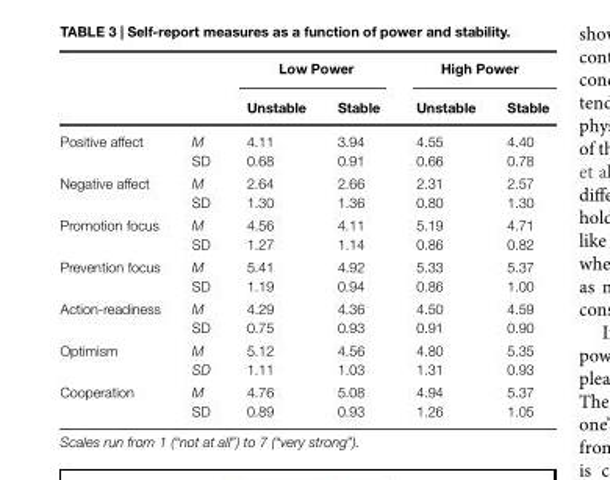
<table><thead><tr><td rowspan="2"></td><td rowspan="2"></td><td colspan="2">Low Power</td><td colspan="2">High Power</td></tr><tr><td>Unstable</td><td>Stable</td><td>Unstable</td><td>Stable</td></tr></thead><tbody><tr><td>Positive affect</td><td>M SD</td><td>4.11 0.68</td><td>3.94 0.91</td><td>4.55 0.66</td><td>4.40 0.78</td></tr><tr><td>Negative affect</td><td>M SD</td><td>2.64 1.30</td><td>2.66 1.36</td><td>2.31 0.80</td><td>2.57 1.30</td></tr><tr><td>Promotion focus</td><td>M SD</td><td>4.56 1.27</td><td>4.11 1.14</td><td>5.19 0.86</td><td>4.71 0.82</td></tr><tr><td>Prevention focus</td><td>M SD</td><td>5.41 1.19</td><td>4.92 0.94</td><td>5.33 0.86</td><td>5.37 1.00</td></tr><tr><td>Action-readiness</td><td>M SD</td><td>4.29 0.75</td><td>4.36 0.93</td><td>4.50 0.91</td><td>4.59 0.90</td></tr><tr><td>Optimism</td><td>M SD</td><td>5.12 1.11</td><td>4.56 1.03</td><td>4.80 1.31</td><td>5.35 0.93</td></tr><tr><td>Cooperation</td><td>M SD</td><td>4.76 0.89</td><td>5.08 0.93</td><td>4.94 1.26</td><td>5.37 1.05</td></tr></tbody></table>